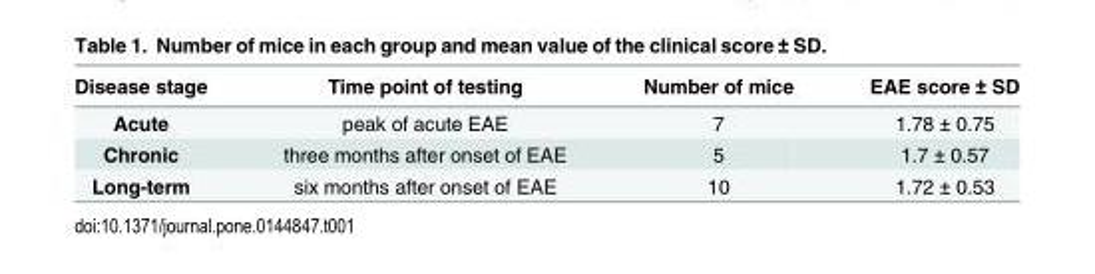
<table><thead><tr><td>Disease stage</td><td>Time point of testing</td><td>Number of mice</td><td>EAE score ± SD</td></tr></thead><tbody><tr><td>Acute</td><td>peak of acute EAE</td><td>7</td><td>1.78 ± 0.75</td></tr><tr><td>Chronic</td><td>three months after onset of EAE</td><td>5</td><td>1.7 ± 0.57</td></tr><tr><td>Long-term</td><td>six months after onset of EAE</td><td>10</td><td>1.72 ± 0.53</td></tr></tbody></table>